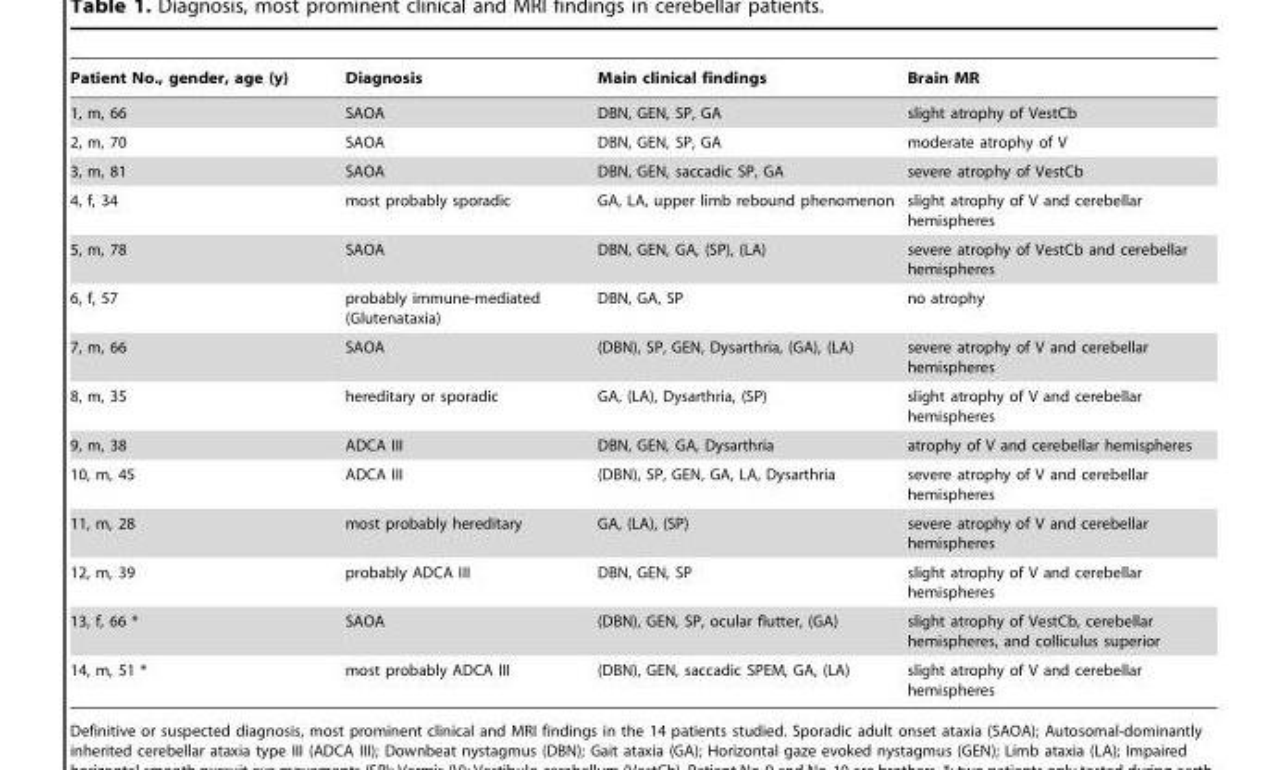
<table><thead><tr><td>Patient No., gender, age (y)</td><td>Diagnosis</td><td>Main clinical findings</td><td>Brain MR</td></tr></thead><tbody><tr><td>1, m, 66</td><td>SAOA</td><td>DBN, GEN, SP, GA</td><td>slight atrophy of VestCb</td></tr><tr><td>2, m, 70</td><td>SAOA</td><td>DBN, GEN, SP, GA</td><td>moderate atrophy of V</td></tr><tr><td>3, m, 81</td><td>SAOA</td><td>DBN, GEN, saccadic SP, GA</td><td>severe atrophy of VestCb</td></tr><tr><td>4, f, 34</td><td>most probably sporadic</td><td>GA, LA, upper limb rebound phenomenon</td><td>slight atrophy of V and cerebellar hemispheres</td></tr><tr><td>5, m, 78</td><td>SAOA</td><td>DBN, GEN, GA, (SP), (LA)</td><td>severe atrophy of VestCb and cerebellar hemispheres</td></tr><tr><td>6, f, 57</td><td>probably immune-mediated (Glutenataxia)</td><td>DBN, GA, SP</td><td>no atrophy</td></tr><tr><td>7, m, 66</td><td>SAOA</td><td>(DBN), SP, GEN, Dysarthria, (GA), (LA)</td><td>severe atrophy of V and cerebellar hemispheres</td></tr><tr><td>8, m, 35</td><td>hereditary or sporadic</td><td>GA, (LA), Dysarthria, (SP)</td><td>slight atrophy of V and cerebellar hemispheres</td></tr><tr><td>9, m, 38</td><td>ADCA III</td><td>DBN, GEN, GA, Dysarthria</td><td>atrophy of V and cerebellar hemispheres</td></tr><tr><td>10, m, 45</td><td>ADCA III</td><td>(DBN), SP, GEN, GA, LA, Dysarthria</td><td>severe atrophy of V and cerebellar hemispheres</td></tr><tr><td>11, m, 28</td><td>most probably hereditary</td><td>GA, (LA), (SP)</td><td>severe atrophy of V and cerebellar hemispheres</td></tr><tr><td>12, m, 39</td><td>probably ADCA III</td><td>DBN, GEN, SP</td><td>slight atrophy of V and cerebellar hemispheres</td></tr><tr><td>13, f, 66 *</td><td>SAOA</td><td>(DBN), GEN, SP, ocular flutter, (GA)</td><td>slight atrophy of VestCb, cerebellar hemispheres, and colliculus superior</td></tr><tr><td>14, m, 51 *</td><td>most probably ADCA III</td><td>(DBN), GEN, saccadic SPEM, GA, (LA)</td><td>slight atrophy of V and cerebellar hemispheres</td></tr></tbody></table>